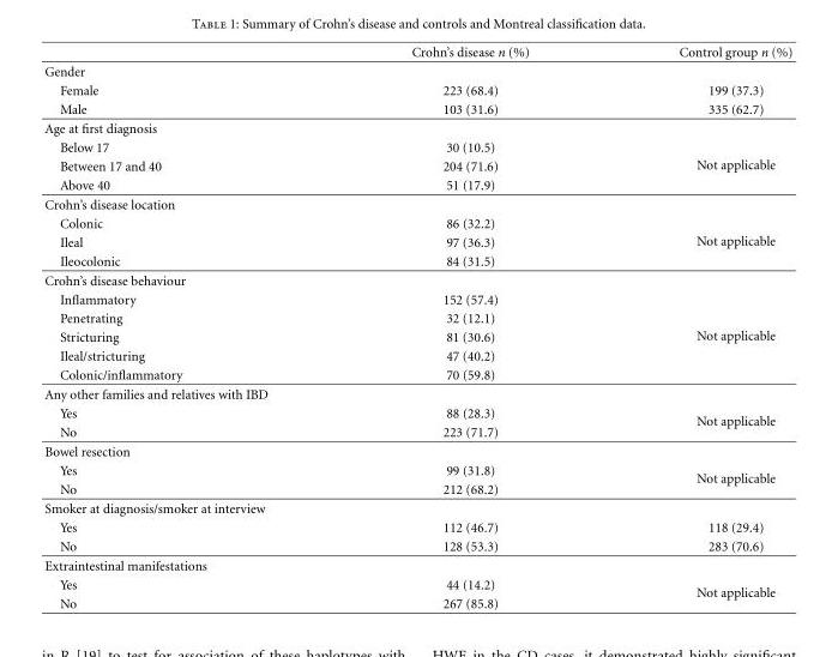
<table><thead><tr><td></td><td>Crohn’s disease n (%)</td><td>Control group n (%)</td></tr></thead><tbody><tr><td colspan="3">Gender</td></tr><tr><td>Female</td><td>223 (68.4)</td><td>199 (37.3)</td></tr><tr><td>Male</td><td>103 (31.6)</td><td>335 (62.7)</td></tr><tr><td colspan="3">Age at first diagnosis</td></tr><tr><td>Below 17</td><td>30 (10.5)</td><td rowspan="3">Not applicable</td></tr><tr><td>Between 17 and 40</td><td>204 (71.6)</td></tr><tr><td>Above 40</td><td>51 (17.9)</td></tr><tr><td colspan="3">Crohn’s disease location</td></tr><tr><td>Colonic</td><td>86 (32.2)</td><td rowspan="3">Not applicable</td></tr><tr><td>Ileal</td><td>97 (36.3)</td></tr><tr><td>Ileocolonic</td><td>84 (31.5)</td></tr><tr><td colspan="3">Crohn’s disease behaviour</td></tr><tr><td>Inflammatory</td><td>152 (57.4)</td><td rowspan="5">Not applicable</td></tr><tr><td>Penetrating</td><td>32 (12.1)</td></tr><tr><td>Stricturing</td><td>81 (30.6)</td></tr><tr><td>Ileal/stricturing</td><td>47 (40.2)</td></tr><tr><td>Colonic/inflammatory</td><td>70 (59.8)</td></tr><tr><td colspan="3">Any other families and relatives with IBD</td></tr><tr><td>Yes</td><td>88 (28.3)</td><td rowspan="2">Not applicable</td></tr><tr><td>No</td><td>223 (71.7)</td></tr><tr><td colspan="3">Bowel resection</td></tr><tr><td>Yes</td><td>99 (31.8)</td><td rowspan="2">Not applicable</td></tr><tr><td>No</td><td>212 (68.2)</td></tr><tr><td colspan="3">Smoker at diagnosis/smoker at interview</td></tr><tr><td>Yes</td><td>112 (46.7)</td><td>118 (29.4)</td></tr><tr><td>No</td><td>128 (53.3)</td><td>283 (70.6)</td></tr><tr><td colspan="3">Extraintestinal manifestations</td></tr><tr><td>Yes</td><td>44 (14.2)</td><td rowspan="2">Not applicable</td></tr><tr><td>No</td><td>267 (85.8)</td></tr></tbody></table>